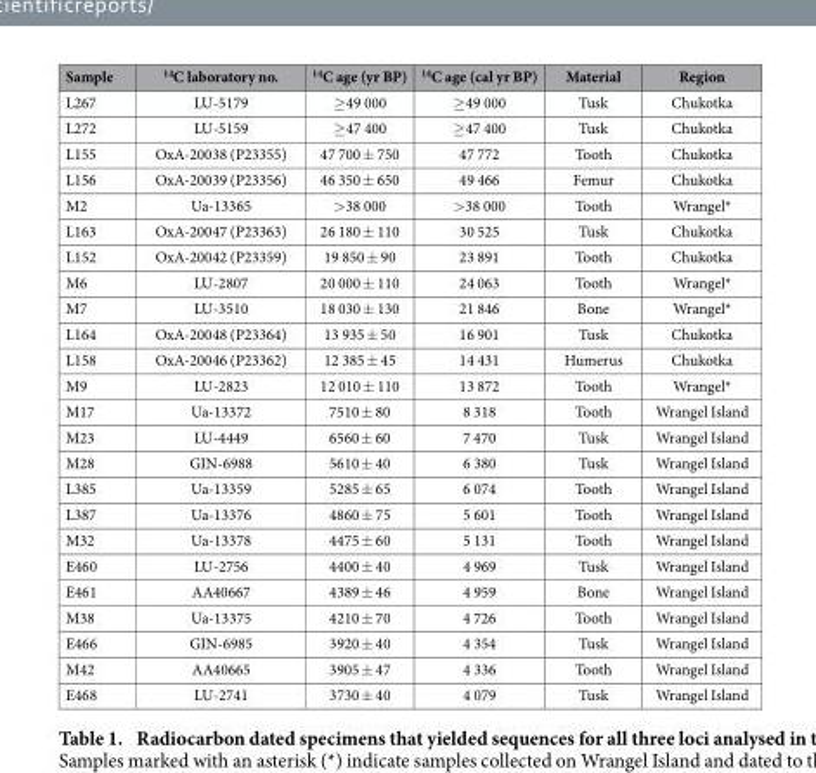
<table><thead><tr><td>Sample</td><td><sup>14</sup>C laboratory no.</td><td><sup>14</sup>C age (yr BP)</td><td><sup>14</sup>C age (cal yr BP)</td><td>Material</td><td>Region</td></tr></thead><tbody><tr><td>L267</td><td>LU-5179</td><td>≥ 49 000</td><td>≥ 49 000</td><td>Tusk</td><td>Chukotka</td></tr><tr><td>L272</td><td>LU-5159</td><td>≥ 47 400</td><td>≥ 47 400</td><td>Tusk</td><td>Chukotka</td></tr><tr><td>L155</td><td>OxA-20038 (P23355)</td><td>47 700 ± 750</td><td>47 772</td><td>Tooth</td><td>Chukotka</td></tr><tr><td>L156</td><td>OxA-20039 (P23356)</td><td>46 350 ± 650</td><td>49 466</td><td>Femur</td><td>Chukotka</td></tr><tr><td>M2</td><td>Ua-13365</td><td>&gt;38 000</td><td>&gt;38 000</td><td>Tooth</td><td>Wrangel*</td></tr><tr><td>L163</td><td>OxA-20047 (P23363)</td><td>26 180 ± 110</td><td>30 525</td><td>Tusk</td><td>Chukotka</td></tr><tr><td>L152</td><td>OxA-20042 (P23359)</td><td>19 850 ± 90</td><td>23 891</td><td>Tooth</td><td>Chukotka</td></tr><tr><td>M6</td><td>LU-2807</td><td>20 000 ± 110</td><td>24 063</td><td>Tooth</td><td>Wrangel*</td></tr><tr><td>M7</td><td>LU-3510</td><td>18 030 ± 130</td><td>21 846</td><td>Bone</td><td>Wrangel*</td></tr><tr><td>L164</td><td>OxA-20048 (P23364)</td><td>13 935 ± 50</td><td>16 901</td><td>Tusk</td><td>Chukotka</td></tr><tr><td>L158</td><td>OxA-20046 (P23362)</td><td>12 385 ± 45</td><td>14 431</td><td>Humerus</td><td>Chukotka</td></tr><tr><td>M9</td><td>LU-2823</td><td>12 010 ± 110</td><td>13 872</td><td>Tooth</td><td>Wrangel*</td></tr><tr><td>M17</td><td>Ua-13372</td><td>7510 ± 80</td><td>8 318</td><td>Tooth</td><td>Wrangel Island</td></tr><tr><td>M23</td><td>LU-4449</td><td>6560 ± 60</td><td>7 470</td><td>Tusk</td><td>Wrangel Island</td></tr><tr><td>M28</td><td>GIN-6988</td><td>5610 ± 40</td><td>6 380</td><td>Tusk</td><td>Wrangel Island</td></tr><tr><td>L385</td><td>Ua-13359</td><td>5285 ± 65</td><td>6 074</td><td>Tooth</td><td>Wrangel Island</td></tr><tr><td>L387</td><td>Ua-13376</td><td>4860 ± 75</td><td>5 601</td><td>Tooth</td><td>Wrangel Island</td></tr><tr><td>M32</td><td>Ua-13378</td><td>4475 ± 60</td><td>5 131</td><td>Tooth</td><td>Wrangel Island</td></tr><tr><td>E460</td><td>LU-2756</td><td>4400 ± 40</td><td>4 969</td><td>Tusk</td><td>Wrangel Island</td></tr><tr><td>E461</td><td>AA40667</td><td>4389 ± 46</td><td>4 959</td><td>Bone</td><td>Wrangel Island</td></tr><tr><td>M38</td><td>Ua-13375</td><td>4210 ± 70</td><td>4 726</td><td>Tooth</td><td>Wrangel Island</td></tr><tr><td>E466</td><td>GIN-6985</td><td>3920 ± 40</td><td>4 354</td><td>Tusk</td><td>Wrangel Island</td></tr><tr><td>M42</td><td>AA40665</td><td>3905 ± 47</td><td>4 336</td><td>Tooth</td><td>Wrangel Island</td></tr><tr><td>E468</td><td>LU-2741</td><td>3730 ± 40</td><td>4 079</td><td>Tusk</td><td>Wrangel Island</td></tr></tbody></table>